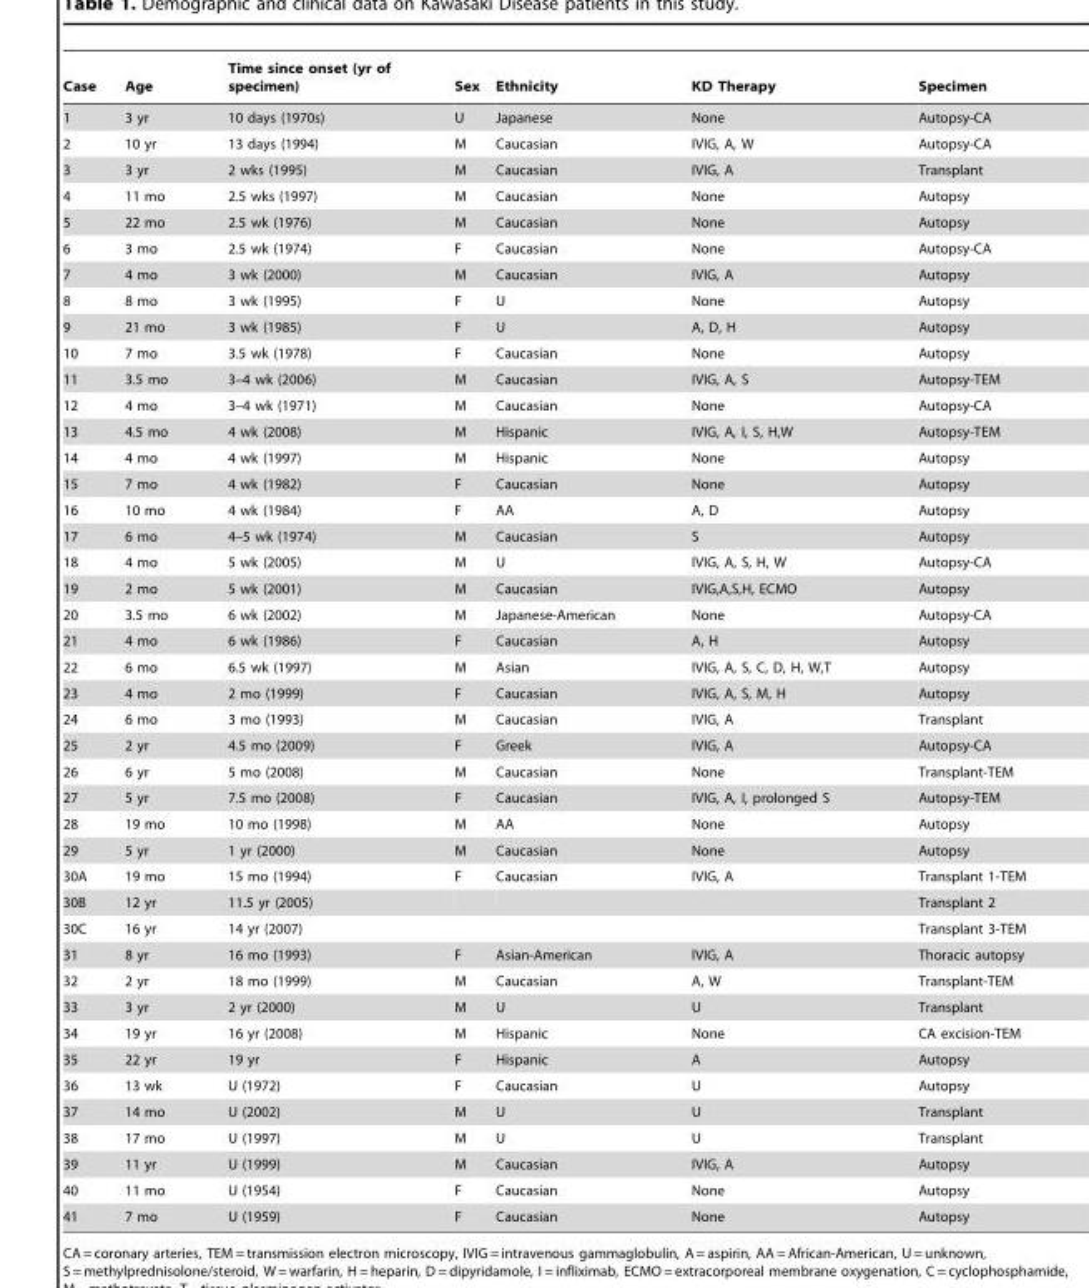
<table><thead><tr><td>Case</td><td>Age</td><td>Time since onset (yr of specimen)</td><td>Sex</td><td>Ethnicity</td><td>KD Therapy</td><td>Specimen</td></tr></thead><tbody><tr><td>1</td><td>3 yr</td><td>10 days (1970s)</td><td>U</td><td>Japanese</td><td>None</td><td>Autopsy-CA</td></tr><tr><td>2</td><td>10 yr</td><td>13 days (1994)</td><td>M</td><td>Caucasian</td><td>IVIG, A, W</td><td>Autopsy-CA</td></tr><tr><td>3</td><td>3 yr</td><td>2 wks (1995)</td><td>M</td><td>Caucasian</td><td>IVIG, A</td><td>Transplant</td></tr><tr><td>4</td><td>11 mo</td><td>2.5 wks (1997)</td><td>M</td><td>Caucasian</td><td>None</td><td>Autopsy</td></tr><tr><td>5</td><td>22 mo</td><td>2.5 wk (1976)</td><td>M</td><td>Caucasian</td><td>None</td><td>Autopsy</td></tr><tr><td>6</td><td>3 mo</td><td>2.5 wk (1974)</td><td>F</td><td>Caucasian</td><td>None</td><td>Autopsy-CA</td></tr><tr><td>7</td><td>4 mo</td><td>3 wk (2000)</td><td>M</td><td>Caucasian</td><td>IVIG, A</td><td>Autopsy</td></tr><tr><td>8</td><td>8 mo</td><td>3 wk (1995)</td><td>F</td><td>U</td><td>None</td><td>Autopsy</td></tr><tr><td>9</td><td>21 mo</td><td>3 wk (1985)</td><td>F</td><td>U</td><td>A, D, H</td><td>Autopsy</td></tr><tr><td>10</td><td>7 mo</td><td>3.5 wk (1978)</td><td>F</td><td>Caucasian</td><td>None</td><td>Autopsy</td></tr><tr><td>11</td><td>3.5 mo</td><td>3–4 wk (2006)</td><td>M</td><td>Caucasian</td><td>IVIG, A, S</td><td>Autopsy-TEM</td></tr><tr><td>12</td><td>4 mo</td><td>3–4 wk (1971)</td><td>M</td><td>Caucasian</td><td>None</td><td>Autopsy-CA</td></tr><tr><td>13</td><td>4.5 mo</td><td>4 wk (2008)</td><td>M</td><td>Hispanic</td><td>IVIG, A, I, S, H,W</td><td>Autopsy-TEM</td></tr><tr><td>14</td><td>4 mo</td><td>4 wk (1997)</td><td>M</td><td>Hispanic</td><td>None</td><td>Autopsy</td></tr><tr><td>15</td><td>7 mo</td><td>4 wk (1982)</td><td>F</td><td>Caucasian</td><td>None</td><td>Autopsy</td></tr><tr><td>16</td><td>10 mo</td><td>4 wk (1984)</td><td>F</td><td>AA</td><td>A, D</td><td>Autopsy</td></tr><tr><td>17</td><td>6 mo</td><td>4–5 wk (1974)</td><td>M</td><td>Caucasian</td><td>S</td><td>Autopsy</td></tr><tr><td>18</td><td>4 mo</td><td>5 wk (2005)</td><td>M</td><td>U</td><td>IVIG, A, S, H, W</td><td>Autopsy-CA</td></tr><tr><td>19</td><td>2 mo</td><td>5 wk (2001)</td><td>M</td><td>Caucasian</td><td>IVIG,A,S,H, ECMO</td><td>Autopsy</td></tr><tr><td>20</td><td>3.5 mo</td><td>6 wk (2002)</td><td>M</td><td>Japanese-American</td><td>None</td><td>Autopsy-CA</td></tr><tr><td>21</td><td>4 mo</td><td>6 wk (1986)</td><td>F</td><td>Caucasian</td><td>A, H</td><td>Autopsy</td></tr><tr><td>22</td><td>6 mo</td><td>6.5 wk (1997)</td><td>M</td><td>Asian</td><td>IVIG, A, S, C, D, H, W,T</td><td>Autopsy</td></tr><tr><td>23</td><td>4 mo</td><td>2 mo (1999)</td><td>F</td><td>Caucasian</td><td>IVIG, A, S, M, H</td><td>Autopsy</td></tr><tr><td>24</td><td>6 mo</td><td>3 mo (1993)</td><td>M</td><td>Caucasian</td><td>IVIG, A</td><td>Transplant</td></tr><tr><td>25</td><td>2 yr</td><td>4.5 mo (2009)</td><td>F</td><td>Greek</td><td>IVIG, A</td><td>Autopsy-CA</td></tr><tr><td>26</td><td>6 yr</td><td>5 mo (2008)</td><td>M</td><td>Caucasian</td><td>None</td><td>Transplant-TEM</td></tr><tr><td>27</td><td>5 yr</td><td>7.5 mo (2008)</td><td>F</td><td>Caucasian</td><td>IVIG, A, I, prolonged S</td><td>Autopsy-TEM</td></tr><tr><td>28</td><td>19 mo</td><td>10 mo (1998)</td><td>M</td><td>AA</td><td>None</td><td>Autopsy</td></tr><tr><td>29</td><td>5 yr</td><td>1 yr (2000)</td><td>M</td><td>Caucasian</td><td>None</td><td>Autopsy</td></tr><tr><td>30A</td><td>19 mo</td><td>15 mo (1994)</td><td>F</td><td>Caucasian</td><td>IVIG, A</td><td>Transplant 1-TEM</td></tr><tr><td>30B</td><td>12 yr</td><td>11.5 yr (2005)</td><td></td><td></td><td></td><td>Transplant 2</td></tr><tr><td>30C</td><td>16 yr</td><td>14 yr (2007)</td><td></td><td></td><td></td><td>Transplant 3-TEM</td></tr><tr><td>31</td><td>8 yr</td><td>16 mo (1993)</td><td>F</td><td>Asian-American</td><td>IVIG, A</td><td>Thoracic autopsy</td></tr><tr><td>32</td><td>2 yr</td><td>18 mo (1999)</td><td>M</td><td>Caucasian</td><td>A, W</td><td>Transplant-TEM</td></tr><tr><td>33</td><td>3 yr</td><td>2 yr (2000)</td><td>M</td><td>U</td><td>U</td><td>Transplant</td></tr><tr><td>34</td><td>19 yr</td><td>16 yr (2008)</td><td>M</td><td>Hispanic</td><td>None</td><td>CA excision-TEM</td></tr><tr><td>35</td><td>22 yr</td><td>19 yr</td><td>F</td><td>Hispanic</td><td>A</td><td>Autopsy</td></tr><tr><td>36</td><td>13 wk</td><td>U (1972)</td><td>F</td><td>Caucasian</td><td>U</td><td>Autopsy</td></tr><tr><td>37</td><td>14 mo</td><td>U (2002)</td><td>M</td><td>U</td><td>U</td><td>Transplant</td></tr><tr><td>38</td><td>17 mo</td><td>U (1997)</td><td>M</td><td>U</td><td>U</td><td>Transplant</td></tr><tr><td>39</td><td>11 yr</td><td>U (1999)</td><td>M</td><td>Caucasian</td><td>IVIG, A</td><td>Autopsy</td></tr><tr><td>40</td><td>11 mo</td><td>U (1954)</td><td>F</td><td>Caucasian</td><td>None</td><td>Autopsy</td></tr><tr><td>41</td><td>7 mo</td><td>U (1959)</td><td>F</td><td>Caucasian</td><td>None</td><td>Autopsy</td></tr></tbody></table>